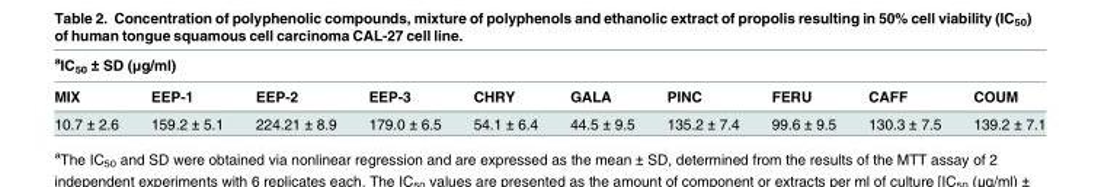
<table><thead><tr><td colspan="10"><sup>a</sup>IC<sub>50</sub> ± SD (μg/ml)</td></tr><tr><td>MIX</td><td>EEP-1</td><td>EEP-2</td><td>EEP-3</td><td>CHRY</td><td>GALA</td><td>PINC</td><td>FERU</td><td>CAFF</td><td>COUM</td></tr></thead><tbody><tr><td>10.7 ± 2.6</td><td>159.2 ± 5.1</td><td>224.21 ± 8.9</td><td>179.0 ± 6.5</td><td>54.1 ± 6.4</td><td>44.5 ± 9.5</td><td>135.2 ± 7.4</td><td>99.6 ± 9.5</td><td>130.3 ± 7.5</td><td>139.2 ± 7.1</td></tr></tbody></table>